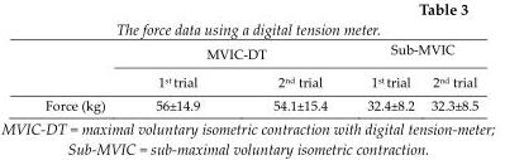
<table><thead><tr><td rowspan="2"></td><td colspan="2">MVIC-DT</td><td colspan="2">Sub-MVIC</td></tr><tr><td>1<sup>st</sup> trial</td><td>2<sup>nd</sup> trial</td><td>1<sup>st</sup> trial</td><td>2<sup>nd</sup> trial</td></tr></thead><tbody><tr><td>Force (kg)</td><td>56±14.9</td><td>54.1±15.4</td><td>32.4±8.2</td><td>32.3±8.5</td></tr></tbody></table>